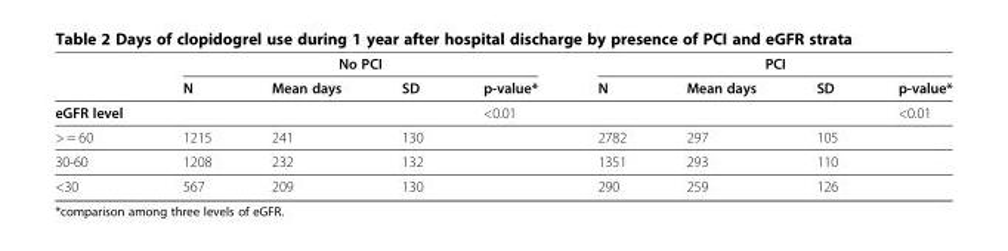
<table><thead><tr><td rowspan="2"></td><td colspan="4">No PCI</td><td colspan="4">PCI</td></tr><tr><td>N</td><td>Mean days</td><td>SD</td><td>p-value*</td><td>N</td><td>Mean days</td><td>SD</td><td>p-value*</td></tr></thead><tbody><tr><td>eGFR level</td><td></td><td></td><td></td><td>&lt;0.01</td><td></td><td></td><td></td><td>&lt;0.01</td></tr><tr><td>&gt; = 60</td><td>1215</td><td>241</td><td>130</td><td></td><td>2782</td><td>297</td><td>105</td><td></td></tr><tr><td>30-60</td><td>1208</td><td>232</td><td>132</td><td></td><td>1351</td><td>293</td><td>110</td><td></td></tr><tr><td>&lt;30</td><td>567</td><td>209</td><td>130</td><td></td><td>290</td><td>259</td><td>126</td><td></td></tr></tbody></table>